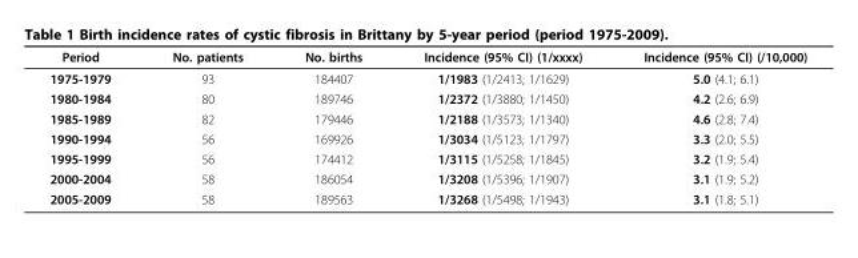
<table><thead><tr><td>Period</td><td>No. patients</td><td>No. births</td><td>Incidence (95% CI) (1/xxxx)</td><td>Incidence (95% CI) (/10,000)</td></tr></thead><tbody><tr><td>1975-1979</td><td>93</td><td>184407</td><td>1/1983 (1/2413; 1/1629)</td><td>5.0 (4.1; 6.1)</td></tr><tr><td>1980-1984</td><td>80</td><td>189746</td><td>1/2372 (1/3880; 1/1450)</td><td>4.2 (2.6; 6.9)</td></tr><tr><td>1985-1989</td><td>82</td><td>179446</td><td>1/2188 (1/3573; 1/1340)</td><td>4.6 (2.8; 7.4)</td></tr><tr><td>1990-1994</td><td>56</td><td>169926</td><td>1/3034 (1/5123; 1/1797)</td><td>3.3 (2.0; 5.5)</td></tr><tr><td>1995-1999</td><td>56</td><td>174412</td><td>1/3115 (1/5258; 1/1845)</td><td>3.2 (1.9; 5.4)</td></tr><tr><td>2000-2004</td><td>58</td><td>186054</td><td>1/3208 (1/5396; 1/1907)</td><td>3.1 (1.9; 5.2)</td></tr><tr><td>2005-2009</td><td>58</td><td>189563</td><td>1/3268 (1/5498; 1/1943)</td><td>3.1 (1.8; 5.1)</td></tr></tbody></table>